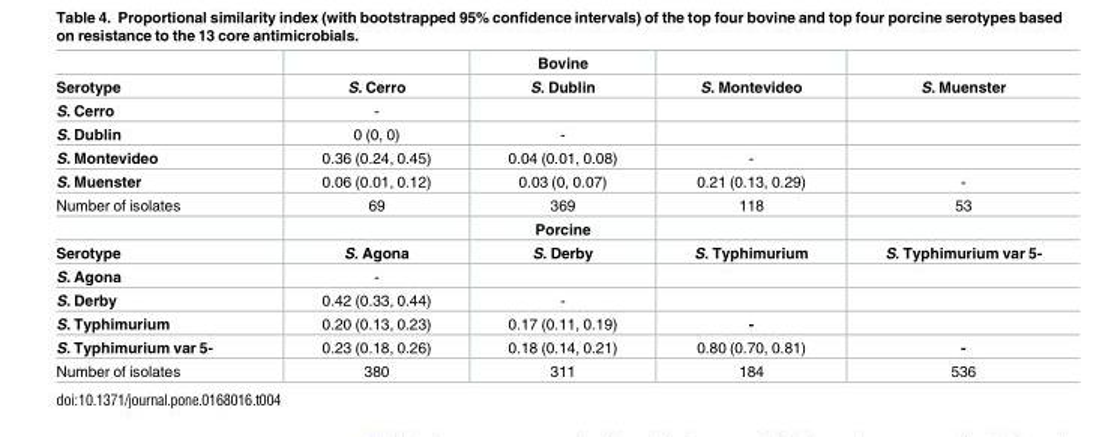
<table><thead><tr><td></td><td></td><td>Bovine</td><td></td><td></td></tr></thead><tbody><tr><td>Serotype</td><td>S. Cerro</td><td>S. Dublin</td><td>S. Montevideo</td><td>S. Muenster</td></tr><tr><td>S. Cerro</td><td>-</td><td></td><td></td><td></td></tr><tr><td>S. Dublin</td><td>0 (0, 0)</td><td>-</td><td></td><td></td></tr><tr><td>S. Montevideo</td><td>0.36 (0.24, 0.45)</td><td>0.04 (0.01, 0.08)</td><td>-</td><td></td></tr><tr><td>S. Muenster</td><td>0.06 (0.01, 0.12)</td><td>0.03 (0, 0.07)</td><td>0.21 (0.13, 0.29)</td><td>-</td></tr><tr><td rowspan="2">Number of isolates</td><td>69</td><td>369</td><td>118</td><td>53</td></tr><tr><td></td><td>Porcine</td><td></td><td></td></tr><tr><td>Serotype</td><td>S. Agona</td><td>S. Derby</td><td>S. Typhimurium</td><td>S. Typhimurium var 5-</td></tr><tr><td>S. Agona</td><td>-</td><td></td><td></td><td></td></tr><tr><td>S. Derby</td><td>0.42 (0.33, 0.44)</td><td>-</td><td></td><td></td></tr><tr><td>S. Typhimurium</td><td>0.20 (0.13, 0.23)</td><td>0.17 (0.11, 0.19)</td><td>-</td><td></td></tr><tr><td>S. Typhimurium var 5-</td><td>0.23 (0.18, 0.26)</td><td>0.18 (0.14, 0.21)</td><td>0.80 (0.70, 0.81)</td><td>-</td></tr><tr><td>Number of isolates</td><td>380</td><td>311</td><td>184</td><td>536</td></tr></tbody></table>